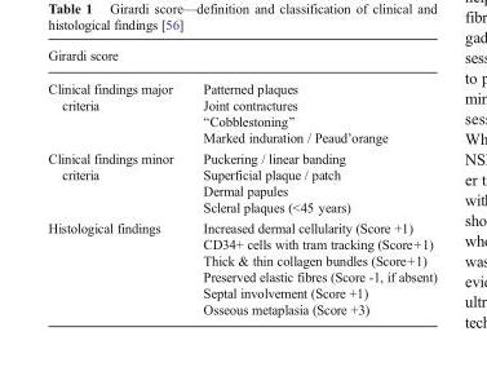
<table><thead><tr><td colspan="2">Girardi score</td></tr><tr><td>Clinical findings major criteria</td><td>Patterned plaques Joint contractures “Cobblestoning” Marked induration / Peaud’orange</td></tr></thead><tbody><tr><td>Clinical findings minor criteria</td><td>Puckering / linear banding Superficial plaque / patch Dermal papules Scleral plaques (&lt;45 years)</td></tr><tr><td>Histological findings</td><td>Increased dermal cellularity (Score +1) CD34+ cells with tram tracking (Score+1) Thick &amp; thin collagen bundles (Score+1) Preserved elastic fibres (Score -1, if absent) Septal involvement (Score +1) Osseous metaplasia (Score +3)</td></tr></tbody></table>